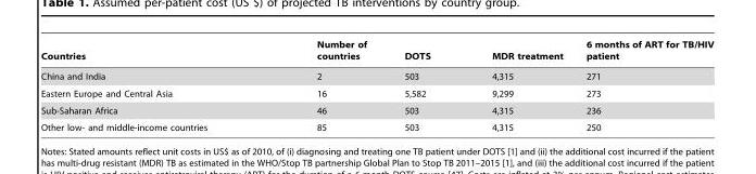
<table><thead><tr><td>Countries</td><td>Number of countries</td><td>DOTS</td><td>MDR treatment</td><td>6 months of ART for TB/HIV patient</td></tr></thead><tbody><tr><td>China and India</td><td>2</td><td>503</td><td>4,315</td><td>271</td></tr><tr><td>Eastern Europe and Central Asia</td><td>16</td><td>5,582</td><td>9,299</td><td>273</td></tr><tr><td>Sub-Saharan Africa</td><td>46</td><td>503</td><td>4,315</td><td>236</td></tr><tr><td>Other low- and middle-income countries</td><td>85</td><td>503</td><td>4,315</td><td>250</td></tr></tbody></table>